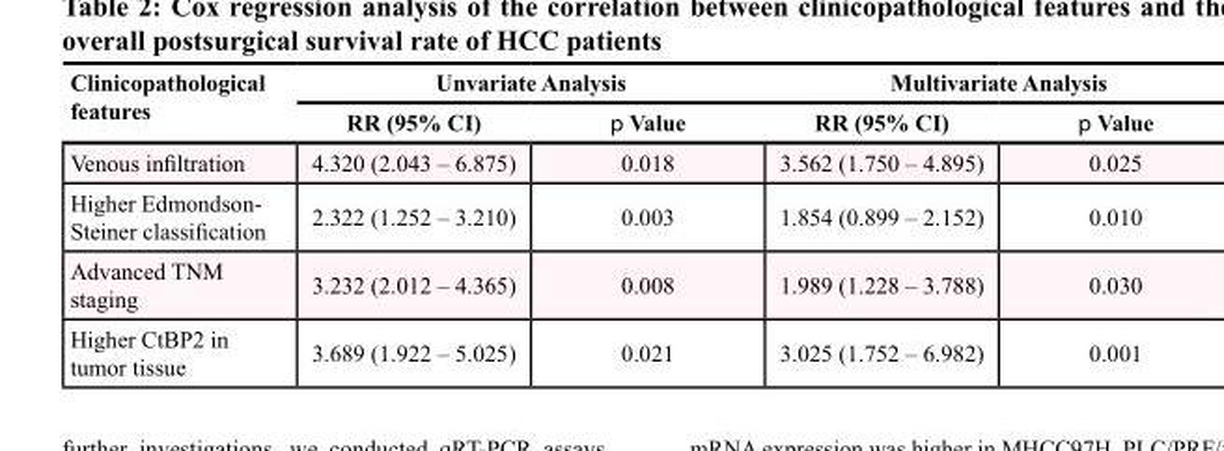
<table><thead><tr><td rowspan="2">Clinicopathological features</td><td colspan="2">Unvariate Analysis</td><td colspan="2">Multivariate Analysis</td></tr><tr><td>RR (95% CI)</td><td>p Value</td><td>RR (95% CI)</td><td>p Value</td></tr></thead><tbody><tr><td>Venous infiltration</td><td>4.320 (2.043 – 6.875)</td><td>0.018</td><td>3.562 (1.750 – 4.895)</td><td>0.025</td></tr><tr><td>Higher Edmondson- Steiner classification</td><td>2.322 (1.252 – 3.210)</td><td>0.003</td><td>1.854 (0.899 – 2.152)</td><td>0.010</td></tr><tr><td>Advanced TNM staging</td><td>3.232 (2.012 – 4.365)</td><td>0.008</td><td>1.989 (1.228 – 3.788)</td><td>0.030</td></tr><tr><td>Higher CtBP2 in tumor tissue</td><td>3.689 (1.922 – 5.025)</td><td>0.021</td><td>3.025 (1.752 – 6.982)</td><td>0.001</td></tr></tbody></table>